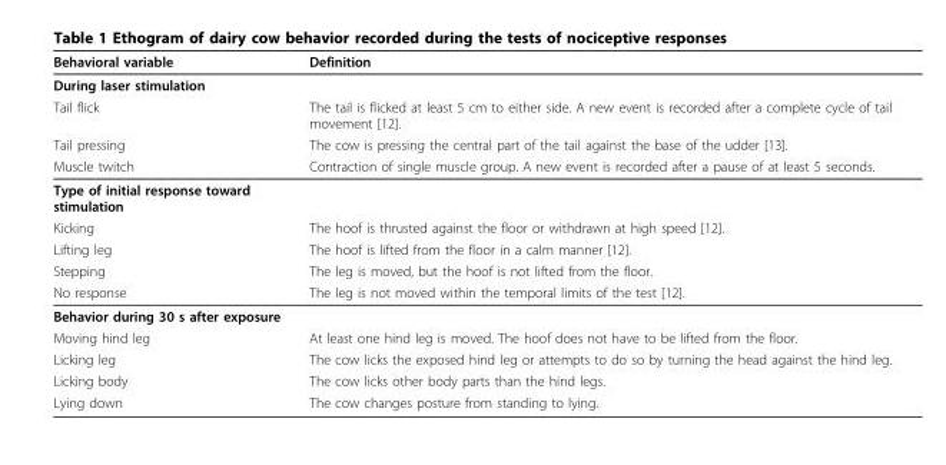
<table><thead><tr><td>Behavioral variable</td><td>Definition</td></tr></thead><tbody><tr><td colspan="2">During laser stimulation</td></tr><tr><td>Tail flick</td><td>The tail is flicked at least 5 cm to either side. A new event is recorded after a complete cycle of tail movement [12].</td></tr><tr><td>Tail pressing</td><td>The cow is pressing the central part of the tail against the base of the udder [13].</td></tr><tr><td>Muscle twitch</td><td>Contraction of single muscle group. A new event is recorded after a pause of at least 5 seconds.</td></tr><tr><td colspan="2">Type of initial response toward stimulation</td></tr><tr><td>Kicking</td><td>The hoof is thrusted against the floor or withdrawn at high speed [12].</td></tr><tr><td>Lifting leg</td><td>The hoof is lifted from the floor in a calm manner [12].</td></tr><tr><td>Stepping</td><td>The leg is moved, but the hoof is not lifted from the floor.</td></tr><tr><td>No response</td><td>The leg is not moved within the temporal limits of the test [12].</td></tr><tr><td colspan="2">Behavior during 30 s after exposure</td></tr><tr><td>Moving hind leg</td><td>At least one hind leg is moved. The hoof does not have to be lifted from the floor.</td></tr><tr><td>Licking leg</td><td>The cow licks the exposed hind leg or attempts to do so by turning the head against the hind leg.</td></tr><tr><td>Licking body</td><td>The cow licks other body parts than the hind legs.</td></tr><tr><td>Lying down</td><td>The cow changes posture from standing to lying.</td></tr></tbody></table>